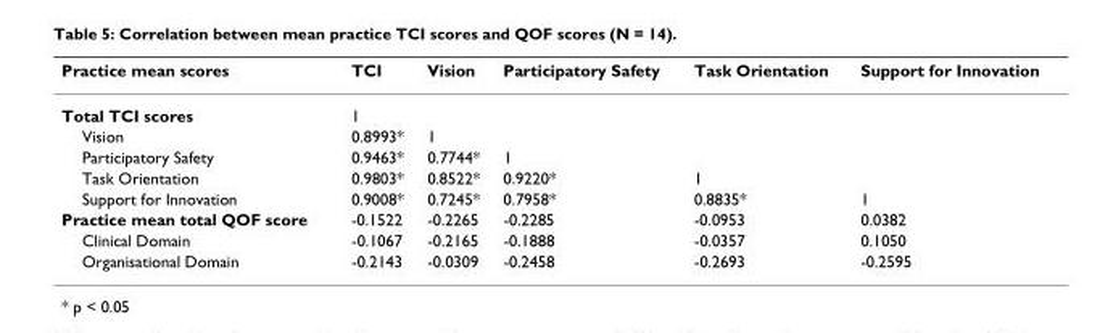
<table><thead><tr><td>Practice mean scores</td><td>TCI</td><td>Vision</td><td>Participatory Safety</td><td>Task Orientation</td><td>Support for Innovation</td></tr></thead><tbody><tr><td>Total TCI scores</td><td>1</td><td></td><td></td><td></td><td></td></tr><tr><td>Vision</td><td>0.8993*</td><td>1</td><td></td><td></td><td></td></tr><tr><td>Participatory Safety</td><td>0.9463*</td><td>0.7744*</td><td>1</td><td></td><td></td></tr><tr><td>Task Orientation</td><td>0.9803*</td><td>0.8522*</td><td>0.9220*</td><td>1</td><td></td></tr><tr><td>Support for Innovation</td><td>0.9008*</td><td>0.7245*</td><td>0.7958*</td><td>0.8835*</td><td>1</td></tr><tr><td>Practice mean total QOF score</td><td>-0.1522</td><td>-0.2265</td><td>-0.2285</td><td>-0.0953</td><td>0.0382</td></tr><tr><td>Clinical Domain</td><td>-0.1067</td><td>-0.2165</td><td>-0.1888</td><td>-0.0357</td><td>0.1050</td></tr><tr><td>Organisational Domain</td><td>-0.2143</td><td>-0.0309</td><td>-0.2458</td><td>-0.2693</td><td>-0.2595</td></tr></tbody></table>